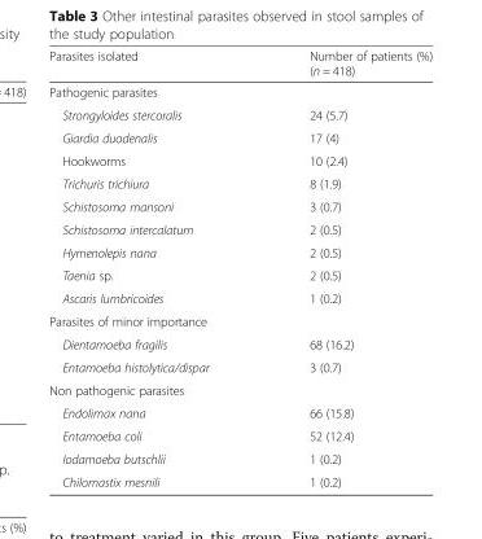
<table><thead><tr><td>Parasites isolated</td><td>Number of patients (%) (n = 418)</td></tr></thead><tbody><tr><td colspan="2">Pathogenic parasites</td></tr><tr><td>Strongyloides stercoralis</td><td>24 (5.7)</td></tr><tr><td>Giardia duodenalis</td><td>17 (4)</td></tr><tr><td>Hookworms</td><td>10 (2.4)</td></tr><tr><td>Trichuris trichiura</td><td>8 (1.9)</td></tr><tr><td>Schistosoma mansoni</td><td>3 (0.7)</td></tr><tr><td>Schistosoma intercalatum</td><td>2 (0.5)</td></tr><tr><td>Hymenolepis nana</td><td>2 (0.5)</td></tr><tr><td>Taenia sp.</td><td>2 (0.5)</td></tr><tr><td>Ascaris lumbricoides</td><td>1 (0.2)</td></tr><tr><td colspan="2">Parasites of minor importance</td></tr><tr><td>Dientamoeba fragilis</td><td>68 (16.2)</td></tr><tr><td>Entamoeba histolytica/dispar</td><td>3 (0.7)</td></tr><tr><td colspan="2">Non pathogenic parasites</td></tr><tr><td>Endolimax nana</td><td>66 (15.8)</td></tr><tr><td>Entamoeba coli</td><td>52 (12.4)</td></tr><tr><td>Iodamoeba butschlii</td><td>1 (0.2)</td></tr><tr><td>Chilomastix mesnili</td><td>1 (0.2)</td></tr></tbody></table>